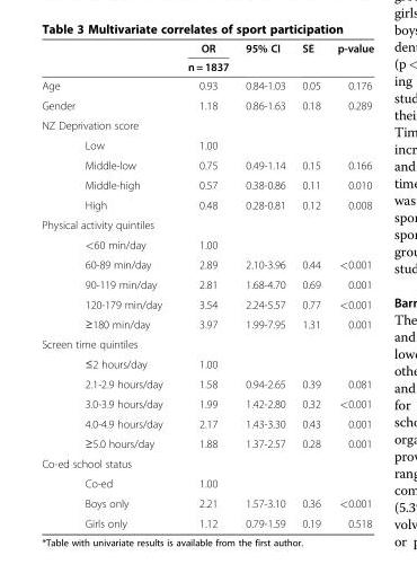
<table><thead><tr><td rowspan="2"></td><td rowspan="2"></td><td rowspan="2">OR n = 1837</td><td rowspan="2">95% CI</td><td rowspan="2">SE</td><td rowspan="2">p-value</td></tr><tr></tr></thead><tbody><tr><td>Age</td><td></td><td>0.93</td><td>0.84-1.03</td><td>0.05</td><td>0.176</td></tr><tr><td colspan="2">Gender</td><td>1.18</td><td>0.86-1.63</td><td>0.18</td><td>0.289</td></tr><tr><td colspan="6">NZ Deprivation score</td></tr><tr><td></td><td>Low</td><td>1.00</td><td></td><td></td><td></td></tr><tr><td></td><td>Middle-low</td><td>0.75</td><td>0.49-1.14</td><td>0.15</td><td>0.166</td></tr><tr><td></td><td>Middle-high</td><td>0.57</td><td>0.38-0.86</td><td>0.11</td><td>0.010</td></tr><tr><td></td><td>High</td><td>0.48</td><td>0.28-0.81</td><td>0.12</td><td>0.008</td></tr><tr><td colspan="6">Physical activity quintiles</td></tr><tr><td></td><td>&lt;60 min/day</td><td>1.00</td><td></td><td></td><td></td></tr><tr><td></td><td>60-89 min/day</td><td>2.89</td><td>2.10-3.96</td><td>0.44</td><td>&lt;0.001</td></tr><tr><td></td><td>90-119 min/day</td><td>2.81</td><td>1.68-4.70</td><td>0.69</td><td>0.001</td></tr><tr><td></td><td>120-179 min/day</td><td>3.54</td><td>2.24-5.57</td><td>0.77</td><td>&lt;0.001</td></tr><tr><td></td><td>≥180 min/day</td><td>3.97</td><td>1.99-7.95</td><td>1.31</td><td>0.001</td></tr><tr><td colspan="6">Screen time quintiles</td></tr><tr><td></td><td>≤2 hours/day</td><td>1.00</td><td></td><td></td><td></td></tr><tr><td></td><td>2.1-2.9 hours/day</td><td>1.58</td><td>0.94-2.65</td><td>0.39</td><td>0.081</td></tr><tr><td></td><td>3.0-3.9 hours/day</td><td>1.99</td><td>1.42-2.80</td><td>0.32</td><td>&lt;0.001</td></tr><tr><td></td><td>4.0-4.9 hours/day</td><td>2.17</td><td>1.43-3.30</td><td>0.43</td><td>0.001</td></tr><tr><td></td><td>≥5.0 hours/day</td><td>1.88</td><td>1.37-2.57</td><td>0.28</td><td>0.001</td></tr><tr><td colspan="6">Co-ed school status</td></tr><tr><td></td><td>Co-ed</td><td>1.00</td><td></td><td></td><td></td></tr><tr><td></td><td>Boys only</td><td>2.21</td><td>1.57-3.10</td><td>0.36</td><td>&lt;0.001</td></tr><tr><td></td><td>Girls only</td><td>1.12</td><td>0.79-1.59</td><td>0.19</td><td>0.518</td></tr></tbody></table>